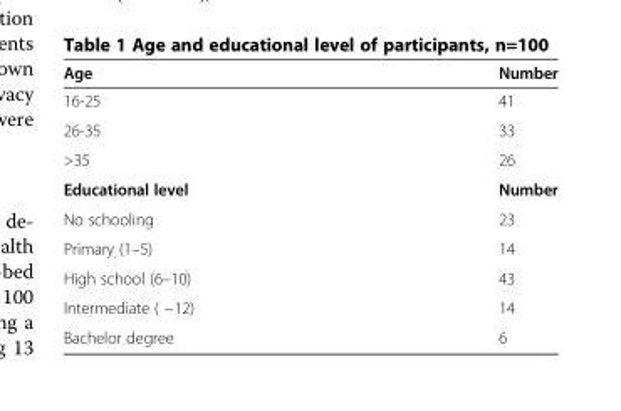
<table><thead><tr><td>Age</td><td>Number</td></tr></thead><tbody><tr><td>16-25</td><td>41</td></tr><tr><td>26-35</td><td>33</td></tr><tr><td>&gt;35</td><td>26</td></tr><tr><td>Educational level</td><td>Number</td></tr><tr><td>No schooling</td><td>23</td></tr><tr><td>Primary (1–5)</td><td>14</td></tr><tr><td>High school (6–10)</td><td>43</td></tr><tr><td>Intermediate ( −12)</td><td>14</td></tr><tr><td>Bachelor degree</td><td>6</td></tr></tbody></table>